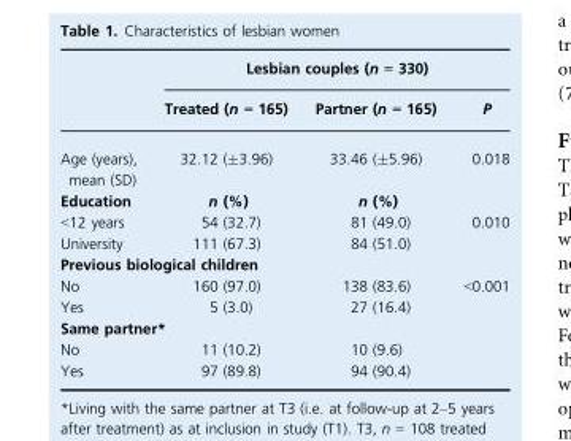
<table><thead><tr><td rowspan="2"></td><td colspan="3">Lesbian couples (n = 330)</td></tr><tr><td>Treated (n = 165)</td><td>Partner (n = 165)</td><td>P</td></tr></thead><tbody><tr><td>Age (years), mean (SD)</td><td>32.12 (±3.96)</td><td>33.46 (±5.96)</td><td>0.018</td></tr><tr><td>Education</td><td>n (%)</td><td>n (%)</td><td></td></tr><tr><td>&lt;12 years</td><td>54 (32.7)</td><td>81 (49.0)</td><td>0.010</td></tr><tr><td>University</td><td>111 (67.3)</td><td>84 (51.0)</td><td></td></tr><tr><td colspan="4">Previous biological children</td></tr><tr><td>No</td><td>160 (97.0)</td><td>138 (83.6)</td><td>&lt;0.001</td></tr><tr><td>Yes</td><td>5 (3.0)</td><td>27 (16.4)</td><td></td></tr><tr><td colspan="4">Same partner*</td></tr><tr><td>No</td><td>11 (10.2)</td><td>10 (9.6)</td><td></td></tr><tr><td>Yes</td><td>97 (89.8)</td><td>94 (90.4)</td><td></td></tr></tbody></table>